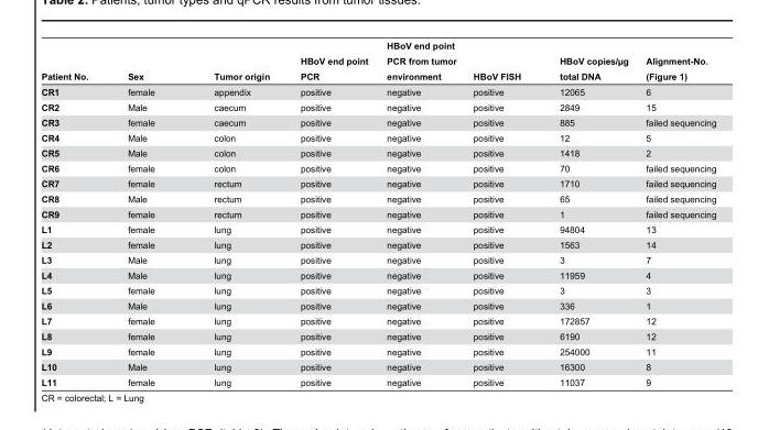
<table><thead><tr><td>Patient No.</td><td>Sex</td><td>Tumor origin</td><td>HBoV end point PCR</td><td>HBoV end point PCR from tumor environment</td><td>HBoV FISH</td><td>HBoV copies/µg total DNA</td><td>Alignment-No. (Figure 1)</td></tr></thead><tbody><tr><td>CR1</td><td>female</td><td>appendix</td><td>positive</td><td>negative</td><td>positive</td><td>12065</td><td>6</td></tr><tr><td>CR2</td><td>Male</td><td>caecum</td><td>positive</td><td>negative</td><td>positive</td><td>2849</td><td>15</td></tr><tr><td>CR3</td><td>female</td><td>caecum</td><td>positive</td><td>negative</td><td>positive</td><td>885</td><td>failed sequencing</td></tr><tr><td>CR4</td><td>Male</td><td>colon</td><td>positive</td><td>negative</td><td>positive</td><td>12</td><td>5</td></tr><tr><td>CR5</td><td>Male</td><td>colon</td><td>positive</td><td>negative</td><td>positive</td><td>1418</td><td>2</td></tr><tr><td>CR6</td><td>female</td><td>colon</td><td>positive</td><td>negative</td><td>positive</td><td>70</td><td>failed sequencing</td></tr><tr><td>CR7</td><td>female</td><td>rectum</td><td>positive</td><td>negative</td><td>positive</td><td>1710</td><td>failed sequencing</td></tr><tr><td>CR8</td><td>Male</td><td>rectum</td><td>positive</td><td>negative</td><td>positive</td><td>65</td><td>failed sequencing</td></tr><tr><td>CR9</td><td>female</td><td>rectum</td><td>positive</td><td>negative</td><td>positive</td><td>1</td><td>failed sequencing</td></tr><tr><td>L1</td><td>female</td><td>lung</td><td>positive</td><td>negative</td><td>positive</td><td>94804</td><td>13</td></tr><tr><td>L2</td><td>female</td><td>lung</td><td>positive</td><td>negative</td><td>positive</td><td>1563</td><td>14</td></tr><tr><td>L3</td><td>Male</td><td>lung</td><td>positive</td><td>negative</td><td>positive</td><td>3</td><td>7</td></tr><tr><td>L4</td><td>Male</td><td>lung</td><td>positive</td><td>negative</td><td>positive</td><td>11959</td><td>4</td></tr><tr><td>L5</td><td>female</td><td>lung</td><td>positive</td><td>negative</td><td>positive</td><td>3</td><td>3</td></tr><tr><td>L6</td><td>Male</td><td>lung</td><td>positive</td><td>negative</td><td>positive</td><td>336</td><td>1</td></tr><tr><td>L7</td><td>female</td><td>lung</td><td>positive</td><td>negative</td><td>positive</td><td>172857</td><td>12</td></tr><tr><td>L8</td><td>female</td><td>lung</td><td>positive</td><td>negative</td><td>positive</td><td>6190</td><td>12</td></tr><tr><td>L9</td><td>female</td><td>lung</td><td>positive</td><td>negative</td><td>positive</td><td>254000</td><td>11</td></tr><tr><td>L10</td><td>Male</td><td>lung</td><td>positive</td><td>negative</td><td>positive</td><td>16300</td><td>8</td></tr><tr><td>L11</td><td>female</td><td>lung</td><td>positive</td><td>negative</td><td>positive</td><td>11037</td><td>9</td></tr></tbody></table>